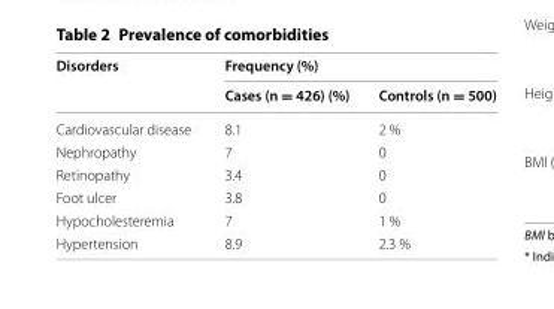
<table><thead><tr><td rowspan="2">Disorders</td><td colspan="2">Frequency (%)</td></tr><tr><td>Cases (n = 426) (%)</td><td>Controls (n = 500)</td></tr></thead><tbody><tr><td>Cardiovascular disease</td><td>8.1</td><td>2 %</td></tr><tr><td>Nephropathy</td><td>7</td><td>0</td></tr><tr><td>Retinopathy</td><td>3.4</td><td>0</td></tr><tr><td>Foot ulcer</td><td>3.8</td><td>0</td></tr><tr><td>Hypocholesteremia</td><td>7</td><td>1 %</td></tr><tr><td>Hypertension</td><td>8.9</td><td>2.3 %</td></tr></tbody></table>